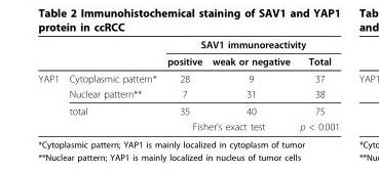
<table><thead><tr><td rowspan="2"></td><td rowspan="2"></td><td colspan="3">SAV1 immunoreactivity</td></tr><tr><td>positive</td><td>weak or negative</td><td>Total</td></tr></thead><tbody><tr><td rowspan="4">YAP1</td><td>Cytoplasmic pattern*</td><td>28</td><td>9</td><td>37</td></tr><tr><td>Nuclear pattern**</td><td>7</td><td>31</td><td>38</td></tr><tr><td>total</td><td>35</td><td>40</td><td>75</td></tr><tr><td></td><td colspan="2">Fisher’s exact test</td><td>p &lt; 0.001</td></tr></tbody></table>